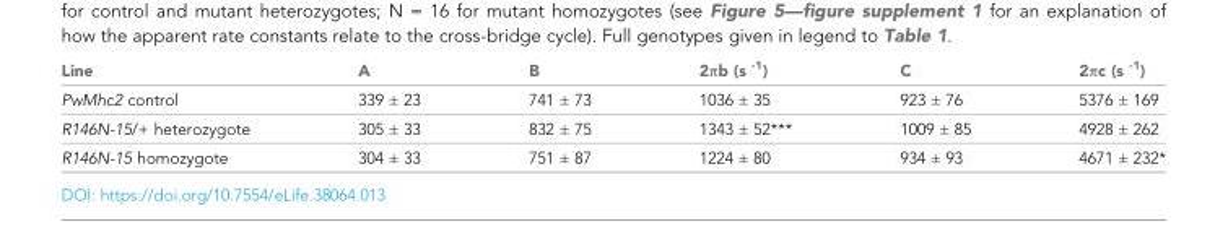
<table><thead><tr><td>Line</td><td>A</td><td>B</td><td>2πb (s <sup>-1</sup>)</td><td>C</td><td>2πc (s <sup>-1</sup>)</td></tr></thead><tbody><tr><td>PwMhc2 control</td><td>339 ± 23</td><td>741 ± 73</td><td>1036 ± 35</td><td>923 ± 76</td><td>5376 ± 169</td></tr><tr><td>R146N-15/+ heterozygote</td><td>305 ± 33</td><td>832 ± 75</td><td>1343 ± 52***</td><td>1009 ± 85</td><td>4928 ± 262</td></tr><tr><td>R146N-15 homozygote</td><td>304 ± 33</td><td>751 ± 87</td><td>1224 ± 80</td><td>934 ± 93</td><td>4671 ± 232*</td></tr></tbody></table>